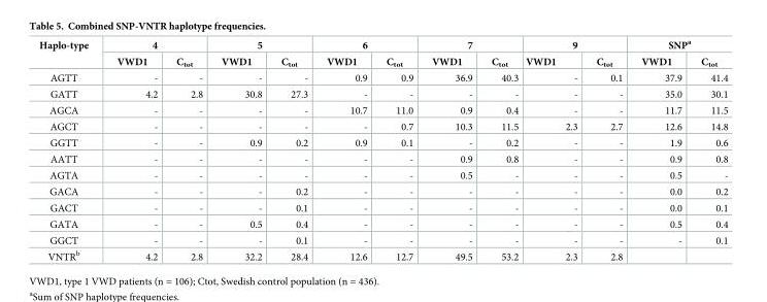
<table><thead><tr><td rowspan="2">Haplo-type</td><td colspan="2">4</td><td colspan="2">5</td><td colspan="2">6</td><td colspan="2">7</td><td colspan="2">9</td><td colspan="2">SNP<sup>a</sup></td></tr><tr><td>VWD1</td><td>C<sub>tot</sub></td><td>VWD1</td><td>C<sub>tot</sub></td><td>VWD1</td><td>C<sub>tot</sub></td><td>VWD1</td><td>C<sub>tot</sub></td><td>VWD1</td><td>C<sub>tot</sub></td><td>VWD1</td><td>C<sub>tot</sub></td></tr></thead><tbody><tr><td>AGTT</td><td>-</td><td>-</td><td>-</td><td>-</td><td>0.9</td><td>0.9</td><td>36.9</td><td>40.3</td><td>-</td><td>0.1</td><td>37.9</td><td>41.4</td></tr><tr><td>GATT</td><td>4.2</td><td>2.8</td><td>30.8</td><td>27.3</td><td>-</td><td>-</td><td>-</td><td>-</td><td>-</td><td>-</td><td>35.0</td><td>30.1</td></tr><tr><td>AGCA</td><td>-</td><td>-</td><td>-</td><td>-</td><td>10.7</td><td>11.0</td><td>0.9</td><td>0.4</td><td>-</td><td>-</td><td>11.7</td><td>11.5</td></tr><tr><td>AGCT</td><td>-</td><td>-</td><td>-</td><td>-</td><td>-</td><td>0.7</td><td>10.3</td><td>11.5</td><td>2.3</td><td>2.7</td><td>12.6</td><td>14.8</td></tr><tr><td>GGTT</td><td>-</td><td>-</td><td>0.9</td><td>0.2</td><td>0.9</td><td>0.1</td><td>-</td><td>0.2</td><td>-</td><td>-</td><td>1.9</td><td>0.6</td></tr><tr><td>AATT</td><td>-</td><td>-</td><td>-</td><td>-</td><td>-</td><td>-</td><td>0.9</td><td>0.8</td><td>-</td><td>-</td><td>0.9</td><td>0.8</td></tr><tr><td>AGTA</td><td>-</td><td>-</td><td>-</td><td>-</td><td>-</td><td>-</td><td>0.5</td><td>-</td><td>-</td><td>-</td><td>0.5</td><td>-</td></tr><tr><td>GACA</td><td>-</td><td>-</td><td>-</td><td>0.2</td><td>-</td><td>-</td><td>-</td><td>-</td><td>-</td><td>-</td><td>0.0</td><td>0.2</td></tr><tr><td>GACT</td><td>-</td><td>-</td><td>-</td><td>0.1</td><td>-</td><td>-</td><td>-</td><td>-</td><td>-</td><td>-</td><td>0.0</td><td>0.1</td></tr><tr><td>GATA</td><td>-</td><td>-</td><td>0.5</td><td>0.4</td><td>-</td><td>-</td><td>-</td><td>-</td><td>-</td><td>-</td><td>0.5</td><td>0.4</td></tr><tr><td>GGCT</td><td>-</td><td>-</td><td>-</td><td>0.1</td><td>-</td><td>-</td><td>-</td><td>-</td><td>-</td><td>-</td><td>-</td><td>0.1</td></tr><tr><td>VNTR<sup>b</sup></td><td>4.2</td><td>2.8</td><td>32.2</td><td>28.4</td><td>12.6</td><td>12.7</td><td>49.5</td><td>53.2</td><td>2.3</td><td>2.8</td><td></td><td></td></tr></tbody></table>